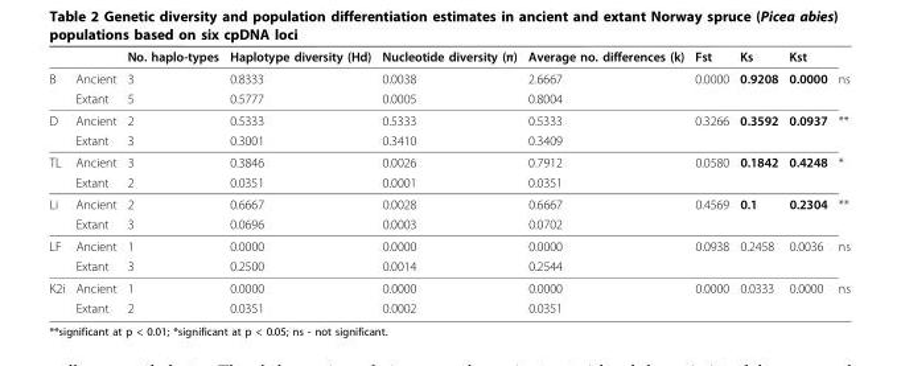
<table><thead><tr><td></td><td></td><td>No. haplo-types</td><td>Haplotype diversity (Hd)</td><td>Nucleotide diversity (π)</td><td>Average no. differences (k)</td><td>Fst</td><td>Ks</td><td>Kst</td><td></td></tr></thead><tbody><tr><td rowspan="2">B</td><td>Ancient</td><td>3</td><td>0.8333</td><td>0.0038</td><td>2.6667</td><td>0.0000</td><td>0.9208</td><td>0.0000</td><td>ns</td></tr><tr><td>Extant</td><td>5</td><td>0.5777</td><td>0.0005</td><td>0.8004</td><td></td><td></td><td></td><td></td></tr><tr><td rowspan="2">D</td><td>Ancient</td><td>2</td><td>0.5333</td><td>0.5333</td><td>0.5333</td><td>0.3266</td><td>0.3592</td><td>0.0937</td><td>**</td></tr><tr><td>Extant</td><td>3</td><td>0.3001</td><td>0.3410</td><td>0.3409</td><td></td><td></td><td></td><td></td></tr><tr><td rowspan="2">TL</td><td>Ancient</td><td>3</td><td>0.3846</td><td>0.0026</td><td>0.7912</td><td>0.0580</td><td>0.1842</td><td>0.4248</td><td>*</td></tr><tr><td>Extant</td><td>2</td><td>0.0351</td><td>0.0001</td><td>0.0351</td><td></td><td></td><td></td><td></td></tr><tr><td rowspan="2">Li</td><td>Ancient</td><td>2</td><td>0.6667</td><td>0.0028</td><td>0.6667</td><td>0.4569</td><td>0.1</td><td>0.2304</td><td>**</td></tr><tr><td>Extant</td><td>3</td><td>0.0696</td><td>0.0003</td><td>0.0702</td><td></td><td></td><td></td><td></td></tr><tr><td rowspan="2">LF</td><td>Ancient</td><td>1</td><td>0.0000</td><td>0.0000</td><td>0.0000</td><td>0.0938</td><td>0.2458</td><td>0.0036</td><td>ns</td></tr><tr><td>Extant</td><td>3</td><td>0.2500</td><td>0.0014</td><td>0.2544</td><td></td><td></td><td></td><td></td></tr><tr><td rowspan="2">K2i</td><td>Ancient</td><td>1</td><td>0.0000</td><td>0.0000</td><td>0.0000</td><td>0.0000</td><td>0.0333</td><td>0.0000</td><td>ns</td></tr><tr><td>Extant</td><td>2</td><td>0.0351</td><td>0.0002</td><td>0.0351</td><td></td><td></td><td></td><td></td></tr></tbody></table>